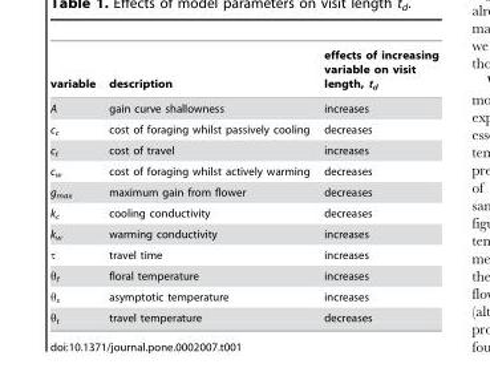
<table><thead><tr><td>variable</td><td>description</td><td>effects of increasing variable on visit length, t<sub>d</sub></td></tr></thead><tbody><tr><td>A</td><td>gain curve shallowness</td><td>increases</td></tr><tr><td>c<sub>c</sub></td><td>cost of foraging whilst passively cooling</td><td>decreases</td></tr><tr><td>c<sub>t</sub></td><td>cost of travel</td><td>increases</td></tr><tr><td>c<sub>w</sub></td><td>cost of foraging whilst actively warming</td><td>decreases</td></tr><tr><td>g<sub>max</sub></td><td>maximum gain from flower</td><td>decreases</td></tr><tr><td>k<sub>c</sub></td><td>cooling conductivity</td><td>decreases</td></tr><tr><td>k<sub>w</sub></td><td>warming conductivity</td><td>increases</td></tr><tr><td>τ</td><td>travel time</td><td>increases</td></tr><tr><td>θ<sub>f</sub></td><td>floral temperature</td><td>increases</td></tr><tr><td>θ<sub>s</sub></td><td>asymptotic temperature</td><td>increases</td></tr><tr><td>θ<sub>t</sub></td><td>travel temperature</td><td>decreases</td></tr></tbody></table>